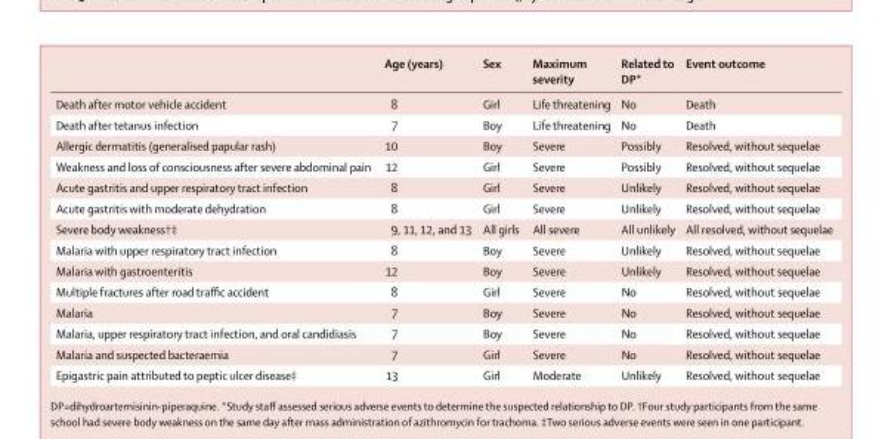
<table><thead><tr><td></td><td>Age (years)</td><td>Sex</td><td>Maximum severity</td><td>Related to DP*</td><td>Event outcome</td></tr></thead><tbody><tr><td>Death after motor vehicle accident</td><td>8</td><td>Girl</td><td>Life threatening</td><td>No</td><td>Death</td></tr><tr><td>Death after tetanus infection</td><td>7</td><td>Boy</td><td>Life threatening</td><td>No</td><td>Death</td></tr><tr><td>Allergic dermatitis (generalised papular rash)</td><td>10</td><td>Boy</td><td>Severe</td><td>Possibly</td><td>Resolved, without sequelae</td></tr><tr><td>Weakness and loss of consciousness after severe abdominal pain</td><td>12</td><td>Girl</td><td>Severe</td><td>Possibly</td><td>Resolved, without sequelae</td></tr><tr><td>Acute gastritis and upper respiratory tract infection</td><td>8</td><td>Girl</td><td>Severe</td><td>Unlikely</td><td>Resolved, without sequelae</td></tr><tr><td>Acute gastritis with moderate dehydration</td><td>8</td><td>Girl</td><td>Severe</td><td>Unlikely</td><td>Resolved, without sequelae</td></tr><tr><td>Severe body weakness†‡</td><td>9, 11, 12, and 13</td><td>All girls</td><td>All severe</td><td>All unlikely</td><td>All resolved, without sequelae</td></tr><tr><td>Malaria with upper respiratory tract infection</td><td>8</td><td>Boy</td><td>Severe</td><td>Unlikely</td><td>Resolved, without sequelae</td></tr><tr><td>Malaria with gastroenteritis</td><td>12</td><td>Boy</td><td>Severe</td><td>Unlikely</td><td>Resolved, without sequelae</td></tr><tr><td>Multiple fractures after road traffic accident</td><td>8</td><td>Girl</td><td>Severe</td><td>No</td><td>Resolved, without sequelae</td></tr><tr><td>Malaria</td><td>7</td><td>Boy</td><td>Severe</td><td>No</td><td>Resolved, without sequelae</td></tr><tr><td>Malaria, upper respiratory tract infection, and oral candidiasis</td><td>7</td><td>Boy</td><td>Severe</td><td>No</td><td>Resolved, without sequelae</td></tr><tr><td>Malaria and suspected bacteraemia</td><td>7</td><td>Girl</td><td>Severe</td><td>No</td><td>Resolved, without sequelae</td></tr><tr><td>Epigastric pain attributed to peptic ulcer disease‡</td><td>13</td><td>Girl</td><td>Moderate</td><td>Unlikely</td><td>Resolved, without sequelae</td></tr></tbody></table>